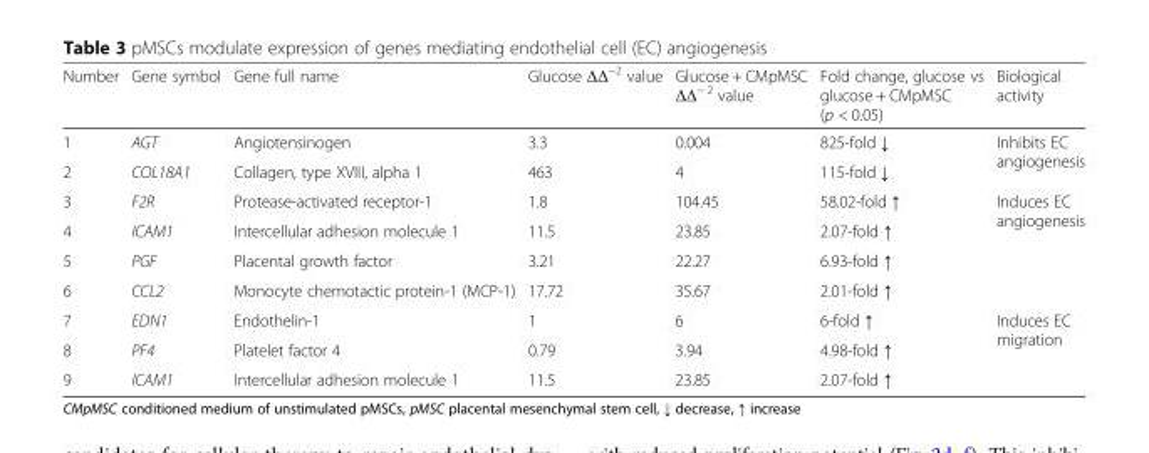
<table><thead><tr><td>Number</td><td>Gene symbol</td><td>Gene full name</td><td>Glucose ΔΔ<sup>−2</sup> value</td><td>Glucose + CMpMSC ΔΔ<sup>− 2</sup> value</td><td>Fold change, glucose vs glucose + CMpMSC (p &lt; 0.05)</td><td>Biological activity</td></tr></thead><tbody><tr><td>1</td><td>AGT</td><td>Angiotensinogen</td><td>3.3</td><td>0.004</td><td>825-fold ↓</td><td rowspan="2">Inhibits EC angiogenesis</td></tr><tr><td>2</td><td>COL18A1</td><td>Collagen, type XVIII, alpha 1</td><td>463</td><td>4</td><td>115-fold ↓</td></tr><tr><td>3</td><td>F2R</td><td>Protease-activated receptor-1</td><td>1.8</td><td>104.45</td><td>58.02-fold ↑</td><td rowspan="4">Induces EC angiogenesis</td></tr><tr><td>4</td><td>ICAM1</td><td>Intercellular adhesion molecule 1</td><td>11.5</td><td>23.85</td><td>2.07-fold ↑</td></tr><tr><td>5</td><td>PGF</td><td>Placental growth factor</td><td>3.21</td><td>22.27</td><td>6.93-fold ↑</td></tr><tr><td>6</td><td>CCL2</td><td>Monocyte chemotactic protein-1 (MCP-1)</td><td>17.72</td><td>35.67</td><td>2.01-fold ↑</td></tr><tr><td>7</td><td>EDN1</td><td>Endothelin-1</td><td>1</td><td>6</td><td>6-fold ↑</td><td rowspan="3">Induces EC migration</td></tr><tr><td>8</td><td>PF4</td><td>Platelet factor 4</td><td>0.79</td><td>3.94</td><td>4.98-fold ↑</td></tr><tr><td>9</td><td>ICAM1</td><td>Intercellular adhesion molecule 1</td><td>11.5</td><td>23.85</td><td>2.07-fold ↑</td></tr></tbody></table>